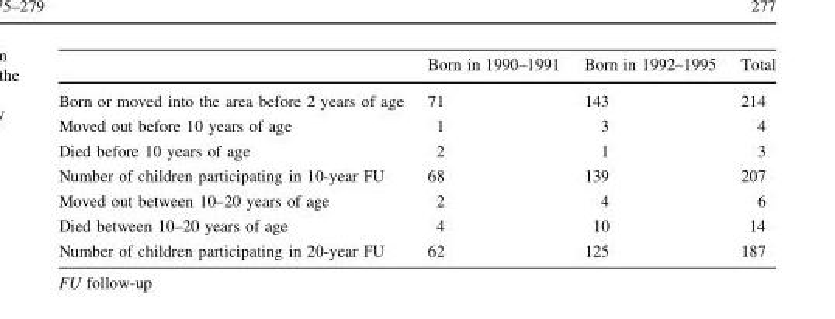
<table><thead><tr><td></td><td>Born in 1990–1991</td><td>Born in 1992–1995</td><td>Total</td></tr></thead><tbody><tr><td>Born or moved into the area before 2 years of age</td><td>71</td><td>143</td><td>214</td></tr><tr><td>Moved out before 10 years of age</td><td>1</td><td>3</td><td>4</td></tr><tr><td>Died before 10 years of age</td><td>2</td><td>1</td><td>3</td></tr><tr><td>Number of children participating in 10-year FU</td><td>68</td><td>139</td><td>207</td></tr><tr><td>Moved out between 10–20 years of age</td><td>2</td><td>4</td><td>6</td></tr><tr><td>Died between 10–20 years of age</td><td>4</td><td>10</td><td>14</td></tr><tr><td>Number of children participating in 20-year FU</td><td>62</td><td>125</td><td>187</td></tr></tbody></table>